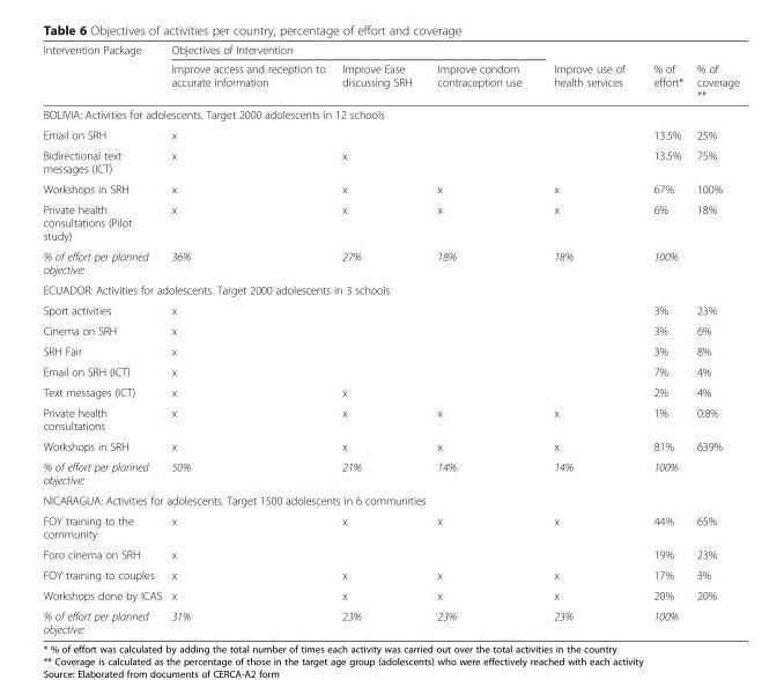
<table><thead><tr><td rowspan="2">Intervention Package</td><td colspan="3">Objectives of Intervention</td><td rowspan="2">Improve use of health services</td><td rowspan="2">% of effort*</td><td rowspan="2">% of coverage **</td></tr><tr><td>Improve access and reception to accurate information</td><td>Improve Ease discussing SRH</td><td>Improve condom contraception use</td></tr></thead><tbody><tr><td colspan="7">BOLIVIA: Activities for adolescents. Target 2000 adolescents in 12 schools</td></tr><tr><td>Email on SRH</td><td>x</td><td></td><td></td><td></td><td>13.5%</td><td>25%</td></tr><tr><td>Bidirectional text messages (ICT)</td><td>x</td><td>x</td><td></td><td></td><td>13.5%</td><td>75%</td></tr><tr><td>Workshops in SRH</td><td>x</td><td>x</td><td>x</td><td>x</td><td>67%</td><td>100%</td></tr><tr><td>Private health consultations (Pilot study)</td><td>x</td><td>x</td><td>x</td><td>x</td><td>6%</td><td>18%</td></tr><tr><td>% of effort per planned objective:</td><td>36%</td><td>27%</td><td>18%</td><td>18%</td><td>100%</td><td></td></tr><tr><td colspan="7">ECUADOR: Activities for adolescents. Target 2000 adolescents in 3 schools</td></tr><tr><td>Sport activities</td><td>x</td><td></td><td></td><td></td><td>3%</td><td>23%</td></tr><tr><td>Cinema on SRH</td><td>x</td><td></td><td></td><td></td><td>3%</td><td>6%</td></tr><tr><td>SRH Fair</td><td>x</td><td></td><td></td><td></td><td>3%</td><td>8%</td></tr><tr><td>Email on SRH (ICT)</td><td>x</td><td></td><td></td><td></td><td>7%</td><td>4%</td></tr><tr><td>Text messages (ICT)</td><td>x</td><td>x</td><td></td><td></td><td>2%</td><td>4%</td></tr><tr><td>Private health consultations</td><td>x</td><td>x</td><td>x</td><td>x</td><td>1%</td><td>0.8%</td></tr><tr><td>Workshops in SRH</td><td>x</td><td>x</td><td>x</td><td>x</td><td>81%</td><td>639%</td></tr><tr><td>% of effort per planned objective:</td><td>50%</td><td>21%</td><td>14%</td><td>14%</td><td>100%</td><td></td></tr><tr><td colspan="7">NICARAGUA: Activities for adolescents. Target 1500 adolescents in 6 communities</td></tr><tr><td>FOY training to the community</td><td>x</td><td>x</td><td>x</td><td>x</td><td>44%</td><td>65%</td></tr><tr><td>Foro cinema on SRH</td><td>x</td><td></td><td></td><td></td><td>19%</td><td>23%</td></tr><tr><td>FOY training to couples</td><td>x</td><td>x</td><td>x</td><td>x</td><td>17%</td><td>3%</td></tr><tr><td>Workshops done by ICAS</td><td>x</td><td>x</td><td>x</td><td>x</td><td>20%</td><td>20%</td></tr><tr><td>% of effort per planned objective:</td><td>31%</td><td>23%</td><td>23%</td><td>23%</td><td>100%</td><td></td></tr></tbody></table>